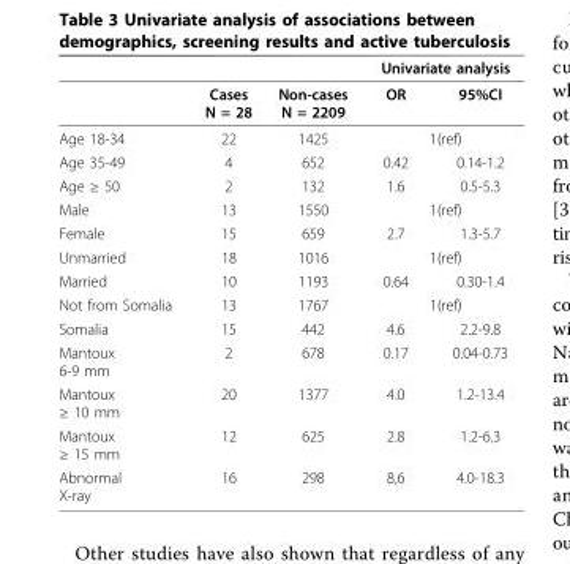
<table><thead><tr><td rowspan="2"></td><td rowspan="2">Cases N = 28</td><td rowspan="2">Non-cases N = 2209</td><td colspan="2">Univariate analysis</td></tr><tr><td>OR</td><td>95%CI</td></tr></thead><tbody><tr><td>Age 18-34</td><td>22</td><td>1425</td><td colspan="2">1(ref)</td></tr><tr><td>Age 35-49</td><td>4</td><td>652</td><td>0.42</td><td>0.14-1.2</td></tr><tr><td>Age ≥ 50</td><td>2</td><td>132</td><td>1.6</td><td>0.5-5.3</td></tr><tr><td>Male</td><td>13</td><td>1550</td><td colspan="2">1(ref)</td></tr><tr><td>Female</td><td>15</td><td>659</td><td>2.7</td><td>1.3-5.7</td></tr><tr><td>Unmarried</td><td>18</td><td>1016</td><td colspan="2">1(ref)</td></tr><tr><td>Married</td><td>10</td><td>1193</td><td>0.64</td><td>0.30-1.4</td></tr><tr><td>Not from Somalia</td><td>13</td><td>1767</td><td colspan="2">1(ref)</td></tr><tr><td>Somalia</td><td>15</td><td>442</td><td>4.6</td><td>2.2-9.8</td></tr><tr><td>Mantoux 6-9 mm</td><td>2</td><td>678</td><td>0.17</td><td>0.04-0.73</td></tr><tr><td>Mantoux ≥ 10 mm</td><td>20</td><td>1377</td><td>4.0</td><td>1.2-13.4</td></tr><tr><td>Mantoux ≥ 15 mm</td><td>12</td><td>625</td><td>2.8</td><td>1.2-6.3</td></tr><tr><td>Abnormal X-ray</td><td>16</td><td>298</td><td>8,6</td><td>4.0-18.3</td></tr></tbody></table>